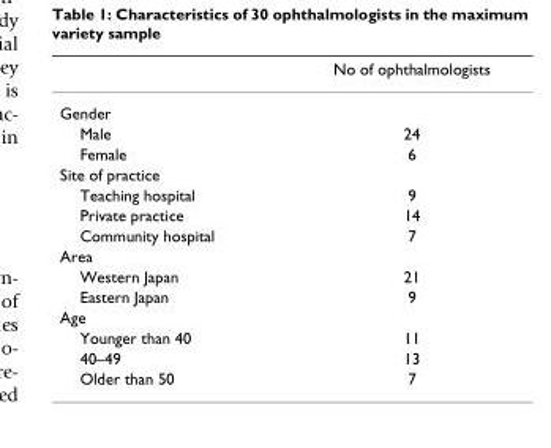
<table><thead><tr><td></td><td>No of ophthalmologists</td></tr></thead><tbody><tr><td colspan="2">Gender</td></tr><tr><td>Male</td><td>24</td></tr><tr><td>Female</td><td>6</td></tr><tr><td colspan="2">Site of practice</td></tr><tr><td>Teaching hospital</td><td>9</td></tr><tr><td>Private practice</td><td>14</td></tr><tr><td>Community hospital</td><td>7</td></tr><tr><td colspan="2">Area</td></tr><tr><td>Western Japan</td><td>21</td></tr><tr><td>Eastern Japan</td><td>9</td></tr><tr><td colspan="2">Age</td></tr><tr><td>Younger than 40</td><td>11</td></tr><tr><td>40–49</td><td>13</td></tr><tr><td>Older than 50</td><td>7</td></tr></tbody></table>